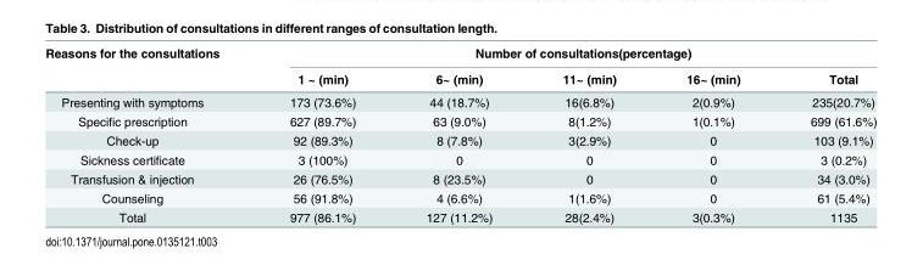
<table><thead><tr><td rowspan="2">Reasons for the consultations</td><td colspan="5">Number of consultations(percentage)</td></tr><tr><td>1 ~ (min)</td><td>6~ (min)</td><td>11~ (min)</td><td>16~ (min)</td><td>Total</td></tr></thead><tbody><tr><td>Presenting with symptoms</td><td>173 (73.6%)</td><td>44 (18.7%)</td><td>16(6.8%)</td><td>2(0.9%)</td><td>235(20.7%)</td></tr><tr><td>Specific prescription</td><td>627 (89.7%)</td><td>63 (9.0%)</td><td>8(1.2%)</td><td>1(0.1%)</td><td>699 (61.6%)</td></tr><tr><td>Check-up</td><td>92 (89.3%)</td><td>8 (7.8%)</td><td>3(2.9%)</td><td>0</td><td>103 (9.1%)</td></tr><tr><td>Sickness certificate</td><td>3 (100%)</td><td>0</td><td>0</td><td>0</td><td>3 (0.2%)</td></tr><tr><td>Transfusion &amp; injection</td><td>26 (76.5%)</td><td>8 (23.5%)</td><td>0</td><td>0</td><td>34 (3.0%)</td></tr><tr><td>Counseling</td><td>56 (91.8%)</td><td>4 (6.6%)</td><td>1(1.6%)</td><td>0</td><td>61 (5.4%)</td></tr><tr><td>Total</td><td>977 (86.1%)</td><td>127 (11.2%)</td><td>28(2.4%)</td><td>3(0.3%)</td><td>1135</td></tr></tbody></table>